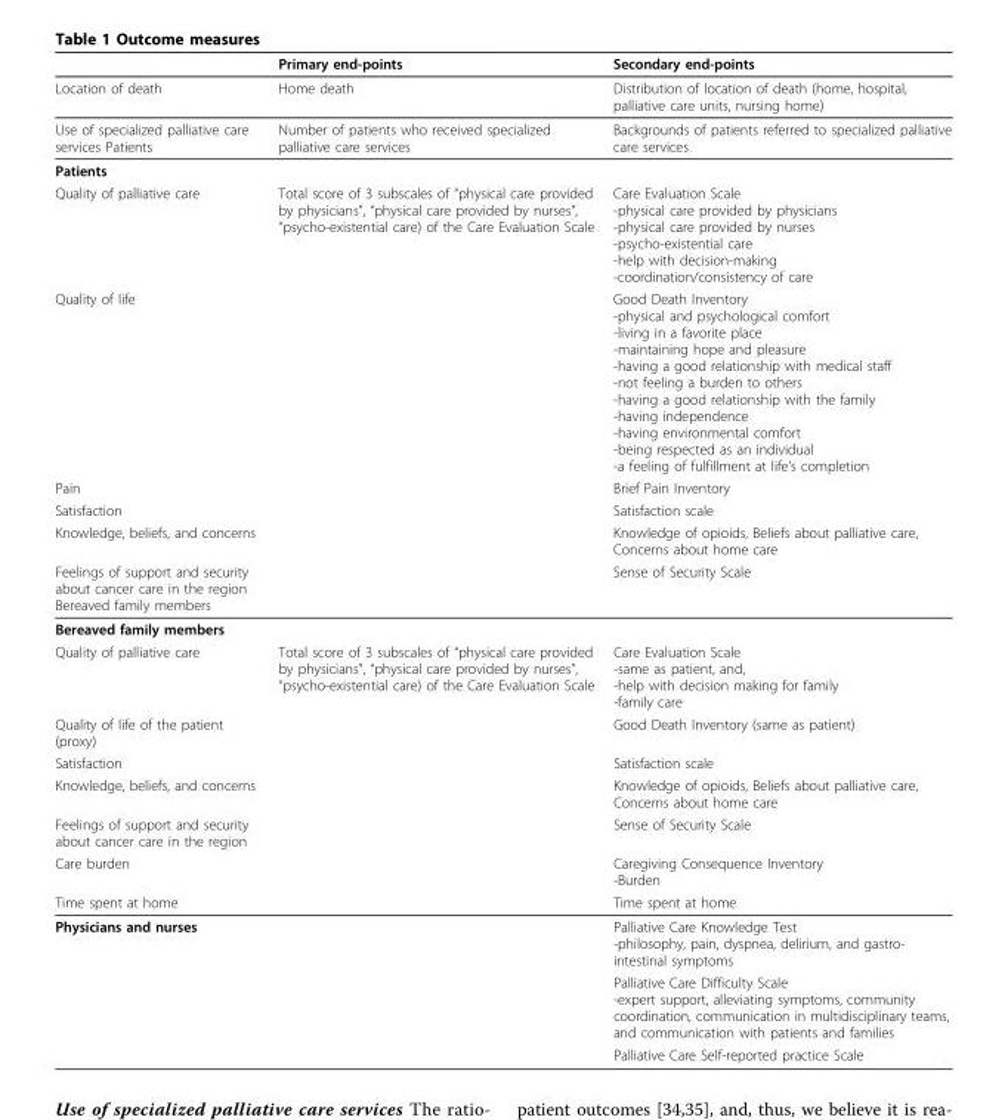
<table><thead><tr><td></td><td>Primary end-points</td><td>Secondary end-points</td></tr></thead><tbody><tr><td>Location of death</td><td>Home death</td><td>Distribution of location of death (home, hospital, palliative care units, nursing home)</td></tr><tr><td>Use of specialized palliative care services Patients</td><td>Number of patients who received specialized palliative care services</td><td>Backgrounds of patients referred to specialized palliative care services</td></tr><tr><td colspan="3">Patients</td></tr><tr><td>Quality of palliative care</td><td>Total score of 3 subscales of “physical care provided by physicians”, “physical care provided by nurses”, “psycho-existential care) of the Care Evaluation Scale</td><td>Care Evaluation Scale -physical care provided by physicians -physical care provided by nurses -psycho-existential care -help with decision-making -coordination/consistency of care</td></tr><tr><td>Quality of life</td><td></td><td>Good Death Inventory -physical and psychological comfort -living in a favorite place -maintaining hope and pleasure -having a good relationship with medical staff -not feeling a burden to others -having a good relationship with the family -having independence -having environmental comfort -being respected as an individual -a feeling of fulfillment at life’s completion</td></tr><tr><td>Pain</td><td></td><td>Brief Pain Inventory</td></tr><tr><td>Satisfaction</td><td></td><td>Satisfaction scale</td></tr><tr><td>Knowledge, beliefs, and concerns</td><td></td><td>Knowledge of opioids, Beliefs about palliative care, Concerns about home care</td></tr><tr><td>Feelings of support and security about cancer care in the region Bereaved family members</td><td></td><td>Sense of Security Scale</td></tr><tr><td colspan="3">Bereaved family members</td></tr><tr><td>Quality of palliative care</td><td>Total score of 3 subscales of “physical care provided by physicians”, “physical care provided by nurses”, “psycho-existential care) of the Care Evaluation Scale</td><td>Care Evaluation Scale -same as patient, and, -help with decision making for family -family care</td></tr><tr><td>Quality of life of the patient (proxy)</td><td></td><td>Good Death Inventory (same as patient)</td></tr><tr><td>Satisfaction</td><td></td><td>Satisfaction scale</td></tr><tr><td>Knowledge, beliefs, and concerns</td><td></td><td>Knowledge of opioids, Beliefs about palliative care, Concerns about home care</td></tr><tr><td>Feelings of support and security about cancer care in the region</td><td></td><td>Sense of Security Scale</td></tr><tr><td>Care burden</td><td></td><td>Caregiving Consequence Inventory -Burden</td></tr><tr><td>Time spent at home</td><td></td><td>Time spent at home</td></tr><tr><td rowspan="3">Physicians and nurses</td><td></td><td>Palliative Care Knowledge Test -philosophy, pain, dyspnea, delirium, and gastro- intestinal symptoms</td></tr><tr><td></td><td>Palliative Care Difficulty Scale -expert support, alleviating symptoms, community coordination, communication in multidisciplinary teams, and communication with patients and families</td></tr><tr><td></td><td>Palliative Care Self-reported practice Scale</td></tr></tbody></table>